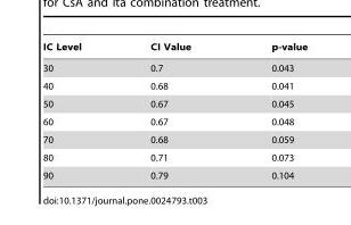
<table><thead><tr><td>IC Level</td><td>CI Value</td><td>p-value</td></tr></thead><tbody><tr><td>30</td><td>0.7</td><td>0.043</td></tr><tr><td>40</td><td>0.68</td><td>0.041</td></tr><tr><td>50</td><td>0.67</td><td>0.045</td></tr><tr><td>60</td><td>0.67</td><td>0.048</td></tr><tr><td>70</td><td>0.68</td><td>0.059</td></tr><tr><td>80</td><td>0.71</td><td>0.073</td></tr><tr><td>90</td><td>0.79</td><td>0.104</td></tr></tbody></table>